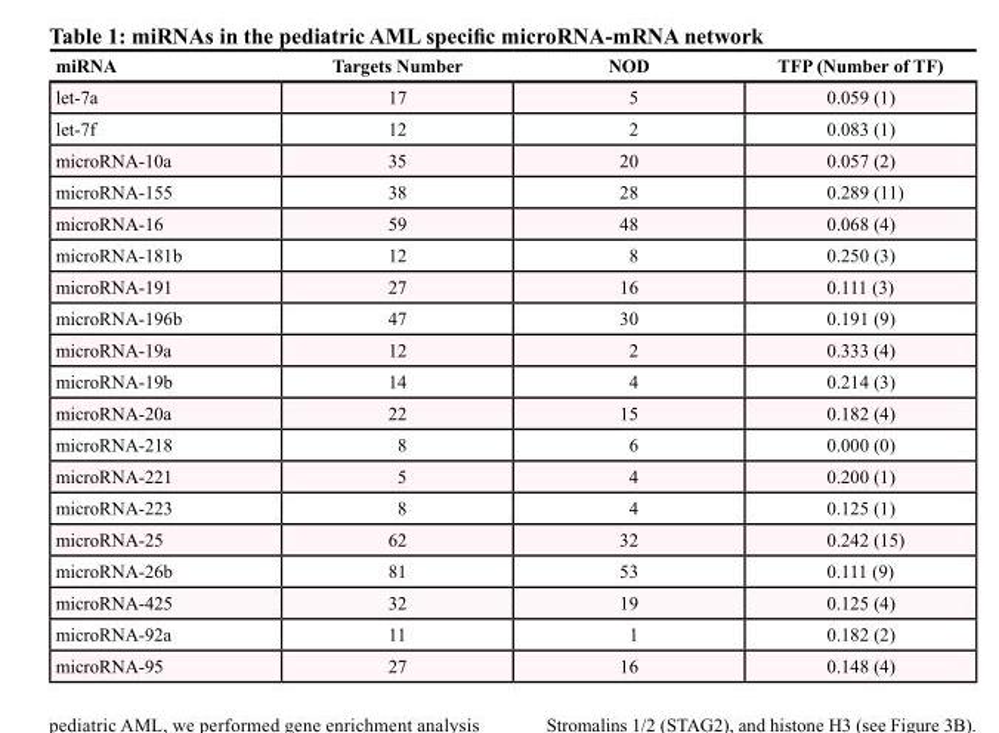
<table><thead><tr><td>miRNA</td><td>Targets Number</td><td>NOD</td><td>TFP (Number of TF)</td></tr></thead><tbody><tr><td>let-7a</td><td>17</td><td>5</td><td>0.059 (1)</td></tr><tr><td>let-7f</td><td>12</td><td>2</td><td>0.083 (1)</td></tr><tr><td>microRNA-10a</td><td>35</td><td>20</td><td>0.057 (2)</td></tr><tr><td>microRNA-155</td><td>38</td><td>28</td><td>0.289 (11)</td></tr><tr><td>microRNA-16</td><td>59</td><td>48</td><td>0.068 (4)</td></tr><tr><td>microRNA-181b</td><td>12</td><td>8</td><td>0.250 (3)</td></tr><tr><td>microRNA-191</td><td>27</td><td>16</td><td>0.111 (3)</td></tr><tr><td>microRNA-196b</td><td>47</td><td>30</td><td>0.191 (9)</td></tr><tr><td>microRNA-19a</td><td>12</td><td>2</td><td>0.333 (4)</td></tr><tr><td>microRNA-19b</td><td>14</td><td>4</td><td>0.214 (3)</td></tr><tr><td>microRNA-20a</td><td>22</td><td>15</td><td>0.182 (4)</td></tr><tr><td>microRNA-218</td><td>8</td><td>6</td><td>0.000 (0)</td></tr><tr><td>microRNA-221</td><td>5</td><td>4</td><td>0.200 (1)</td></tr><tr><td>microRNA-223</td><td>8</td><td>4</td><td>0.125 (1)</td></tr><tr><td>microRNA-25</td><td>62</td><td>32</td><td>0.242 (15)</td></tr><tr><td>microRNA-26b</td><td>81</td><td>53</td><td>0.111 (9)</td></tr><tr><td>microRNA-425</td><td>32</td><td>19</td><td>0.125 (4)</td></tr><tr><td>microRNA-92a</td><td>11</td><td>1</td><td>0.182 (2)</td></tr><tr><td>microRNA-95</td><td>27</td><td>16</td><td>0.148 (4)</td></tr></tbody></table>